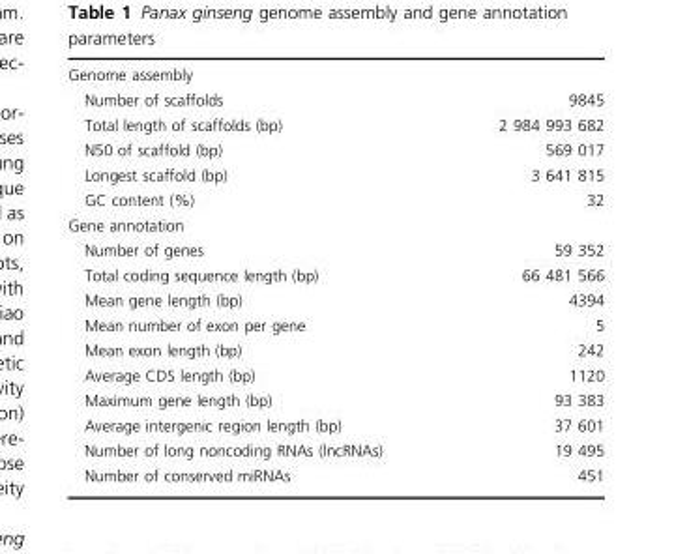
<table><tbody><tr><td colspan="2">Genome assembly</td></tr><tr><td>Number of scaffolds</td><td>9845</td></tr><tr><td>Total length of scaffolds (bp)</td><td>2 984 993 682</td></tr><tr><td>N50 of scaffold (bp)</td><td>569 017</td></tr><tr><td>Longest scaffold (bp)</td><td>3 641 815</td></tr><tr><td>GC content (%)</td><td>32</td></tr><tr><td colspan="2">Gene annotation</td></tr><tr><td>Number of genes</td><td>59 352</td></tr><tr><td>Total coding sequence length (bp)</td><td>66 481 566</td></tr><tr><td>Mean gene length (bp)</td><td>4394</td></tr><tr><td>Mean number of exon per gene</td><td>5</td></tr><tr><td>Mean exon length (bp)</td><td>242</td></tr><tr><td>Average CDS length (bp)</td><td>1120</td></tr><tr><td>Maximum gene length (bp)</td><td>93 383</td></tr><tr><td>Average intergenic region length (bp)</td><td>37 601</td></tr><tr><td>Number of long noncoding RNAs (lncRNAs)</td><td>19 495</td></tr><tr><td>Number of conserved miRNAs</td><td>451</td></tr></tbody></table>